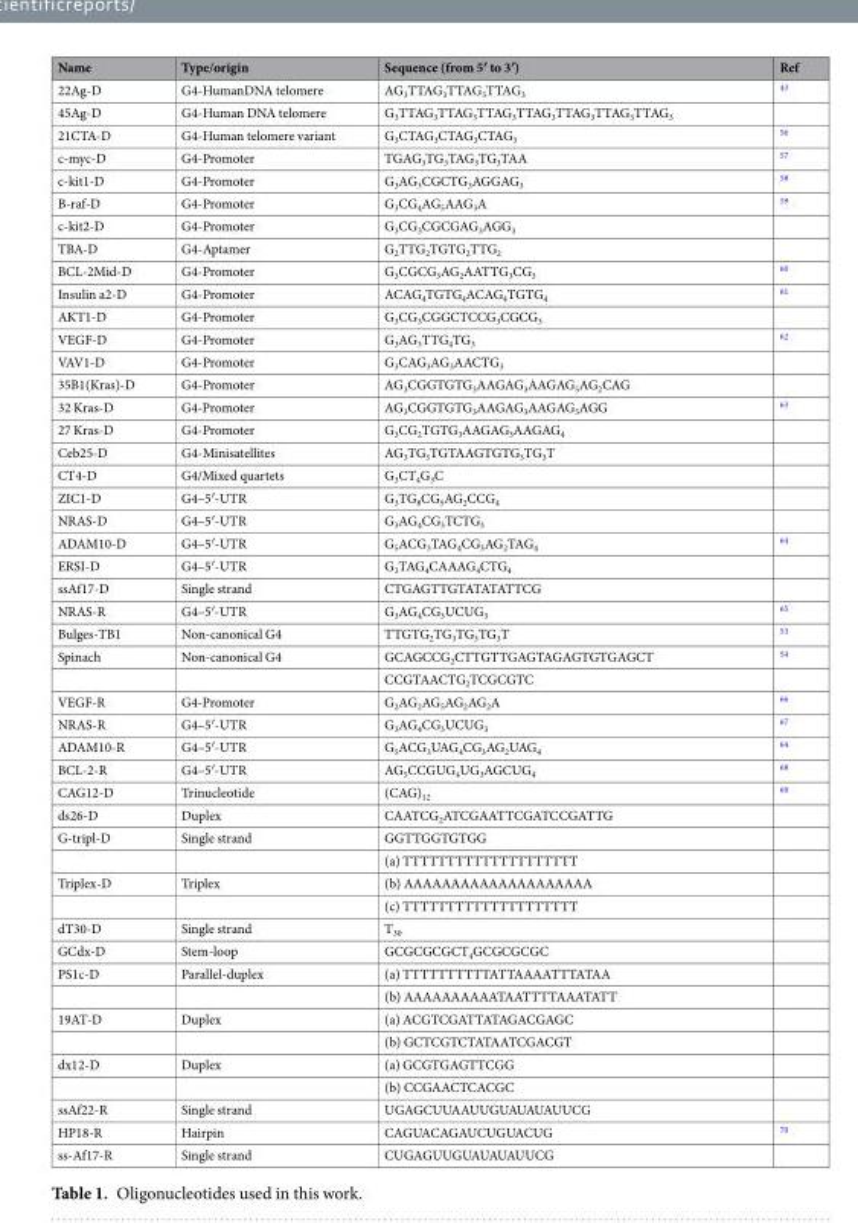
<table><thead><tr><td>Name</td><td>Type/origin</td><td>Sequence (from 5′ to 3′)</td><td>Ref</td></tr></thead><tbody><tr><td>22Ag-D</td><td>G4-HumanDNA telomere</td><td>AG<sub>3</sub>TTAG<sub>3</sub>TTAG<sub>3</sub>TTAG<sub>3</sub></td><td><sup>43</sup></td></tr><tr><td>45Ag-D</td><td>G4-Human DNA telomere</td><td>G<sub>3</sub>TTAG<sub>3</sub>TTAG<sub>3</sub>TTAG<sub>3</sub>TTAG<sub>3</sub>TTAG<sub>3</sub>TTAG<sub>3</sub>TTAG<sub>3</sub></td><td></td></tr><tr><td>21CTA-D</td><td>G4-Human telomere variant</td><td>G<sub>3</sub>CTAG<sub>3</sub>CTAG<sub>3</sub>CTAG<sub>3</sub></td><td><sup>56</sup></td></tr><tr><td>c-myc-D</td><td>G4-Promoter</td><td>TGAG<sub>3</sub>TG<sub>3</sub>TAG<sub>3</sub>TG<sub>3</sub>TAA</td><td><sup>57</sup></td></tr><tr><td>c-kit1-D</td><td>G4-Promoter</td><td>G<sub>3</sub>AG<sub>3</sub>CGCTG<sub>3</sub>AGGAG<sub>3</sub></td><td><sup>58</sup></td></tr><tr><td>B-raf-D</td><td>G4-Promoter</td><td>G<sub>3</sub>CG<sub>4</sub>AG<sub>5</sub>AAG<sub>3</sub>A</td><td><sup>59</sup></td></tr><tr><td>c-kit2-D</td><td>G4-Promoter</td><td>G<sub>3</sub>CG<sub>3</sub>CGCGAG<sub>3</sub>AGG<sub>3</sub></td><td></td></tr><tr><td>TBA-D</td><td>G4-Aptamer</td><td>G<sub>2</sub>TTG<sub>2</sub>TGTG<sub>2</sub>TTG<sub>2</sub></td><td></td></tr><tr><td>BCL-2Mid-D</td><td>G4-Promoter</td><td>G<sub>3</sub>CGCG<sub>3</sub>AG<sub>2</sub>AATTG<sub>3</sub>CG<sub>3</sub></td><td><sup>60</sup></td></tr><tr><td>Insulin a2-D</td><td>G4-Promoter</td><td>ACAG<sub>4</sub>TGTG<sub>4</sub>ACAG<sub>4</sub>TGTG<sub>4</sub></td><td><sup>61</sup></td></tr><tr><td>AKT1-D</td><td>G4-Promoter</td><td>G<sub>3</sub>CG<sub>3</sub>CGGCTCCG<sub>3</sub>CGCG<sub>3</sub></td><td></td></tr><tr><td>VEGF-D</td><td>G4-Promoter</td><td>G<sub>3</sub>AG<sub>3</sub>TTG<sub>4</sub>TG<sub>3</sub></td><td><sup>62</sup></td></tr><tr><td>VAV1-D</td><td>G4-Promoter</td><td>G<sub>3</sub>CAG<sub>3</sub>AG<sub>3</sub>AACTG<sub>3</sub></td><td></td></tr><tr><td>35B1(Kras)-D</td><td>G4-Promoter</td><td>AG<sub>3</sub>CGGTGTG<sub>3</sub>AAGAG<sub>3</sub>AAGAG<sub>5</sub>AG<sub>2</sub>CAG</td><td></td></tr><tr><td>32 Kras-D</td><td>G4-Promoter</td><td>AG<sub>3</sub>CGGTGTG<sub>3</sub>AAGAG<sub>3</sub>AAGAG<sub>5</sub>AGG</td><td><sup>63</sup></td></tr><tr><td>27 Kras-D</td><td>G4-Promoter</td><td>G<sub>3</sub>CG<sub>2</sub>TGTG<sub>3</sub>AAGAG<sub>3</sub>AAGAG<sub>4</sub></td><td></td></tr><tr><td>Ceb25-D</td><td>G4-Minisatellites</td><td>AG<sub>3</sub>TG<sub>3</sub>TGTAAGTGTG<sub>3</sub>TG<sub>3</sub>T</td><td></td></tr><tr><td>CT4-D</td><td>G4/Mixed quartets</td><td>G<sub>3</sub>CT<sub>4</sub>G<sub>3</sub>C</td><td></td></tr><tr><td>ZIC1-D</td><td>G4–5′-UTR</td><td>G<sub>3</sub>TG<sub>8</sub>CG<sub>5</sub>AG<sub>2</sub>CCG<sub>4</sub></td><td></td></tr><tr><td>NRAS-D</td><td>G4–5′-UTR</td><td>G<sub>3</sub>AG<sub>4</sub>CG<sub>3</sub>TCTG<sub>3</sub></td><td></td></tr><tr><td>ADAM10-D</td><td>G4–5′-UTR</td><td>G<sub>5</sub>ACG<sub>3</sub>TAG<sub>4</sub>CG<sub>3</sub>AG<sub>2</sub>TAG<sub>4</sub></td><td><sup>64</sup></td></tr><tr><td>ERSI-D</td><td>G4–5′-UTR</td><td>G<sub>3</sub>TAG<sub>4</sub>CAAAG<sub>4</sub>CTG<sub>4</sub></td><td></td></tr><tr><td>ssAf17-D</td><td>Single strand</td><td>CTGAGTTGTATATATTCG</td><td></td></tr><tr><td>NRAS-R</td><td>G4–5′-UTR</td><td>G<sub>3</sub>AG<sub>4</sub>CG<sub>3</sub>UCUG<sub>3</sub></td><td><sup>65</sup></td></tr><tr><td>Bulges-TB1</td><td>Non-canonical G4</td><td>TTGTG<sub>2</sub>TG<sub>3</sub>TG<sub>3</sub>TG<sub>3</sub>T</td><td><sup>53</sup></td></tr><tr><td rowspan="2">Spinach</td><td>Non-canonical G4</td><td>GCAGCCG<sub>2</sub>CTTGTTGAGTAGAGTGTGAGCT</td><td><sup>54</sup></td></tr><tr><td></td><td>CCGTAACTG<sub>2</sub>TCGCGTC</td><td></td></tr><tr><td>VEGF-R</td><td>G4-Promoter</td><td>G<sub>2</sub>AG<sub>2</sub>AG<sub>5</sub>AG<sub>2</sub>AG<sub>2</sub>A</td><td><sup>66</sup></td></tr><tr><td>NRAS-R</td><td>G4–5′-UTR</td><td>G<sub>3</sub>AG<sub>4</sub>CG<sub>3</sub>UCUG<sub>3</sub></td><td><sup>67</sup></td></tr><tr><td>ADAM10-R</td><td>G4–5′-UTR</td><td>G<sub>5</sub>ACG<sub>3</sub>UAG<sub>4</sub>CG<sub>3</sub>AG<sub>2</sub>UAG<sub>4</sub></td><td><sup>64</sup></td></tr><tr><td>BCL-2-R</td><td>G4–5′-UTR</td><td>AG<sub>5</sub>CCGUG<sub>4</sub>UG<sub>3</sub>AGCUG<sub>4</sub></td><td><sup>68</sup></td></tr><tr><td>CAG12-D</td><td>Trinucleotide</td><td>(CAG)<sub>12</sub></td><td><sup>69</sup></td></tr><tr><td>ds26-D</td><td>Duplex</td><td>CAATCG<sub>2</sub>ATCGAATTCGATCCGATTG</td><td></td></tr><tr><td rowspan="2">G-tripl-D</td><td>Single strand</td><td>GGTTGGTGTGG</td><td></td></tr><tr><td></td><td>(a) TTTTTTTTTTTTTTTTTTTT</td><td></td></tr><tr><td rowspan="2">Triplex-D</td><td>Triplex</td><td>(b) AAAAAAAAAAAAAAAAAAAA</td><td></td></tr><tr><td></td><td>(c) TTTTTTTTTTTTTTTTTTTT</td><td></td></tr><tr><td>dT30-D</td><td>Single strand</td><td>T<sub>30</sub></td><td></td></tr><tr><td>GCdx-D</td><td>Stem-loop</td><td>GCGCGCGCT<sub>4</sub>GCGCGCGC</td><td></td></tr><tr><td rowspan="2">PS1c-D</td><td>Parallel-duplex</td><td>(a) TTTTTTTTTTATTAAAATTTATAA</td><td></td></tr><tr><td></td><td>(b) AAAAAAAAAATAATTTTAAATATT</td><td></td></tr><tr><td rowspan="2">19AT-D</td><td>Duplex</td><td>(a) ACGTCGATTATAGACGAGC</td><td></td></tr><tr><td></td><td>(b) GCTCGTCTATAATCGACGT</td><td></td></tr><tr><td rowspan="2">dx12-D</td><td>Duplex</td><td>(a) GCGTGAGTTCGG</td><td></td></tr><tr><td></td><td>(b) CCGAACTCACGC</td><td></td></tr><tr><td>ssAf22-R</td><td>Single strand</td><td>UGAGCUUAAUUGUAUAUAUUCG</td><td></td></tr><tr><td>HP18-R</td><td>Hairpin</td><td>CAGUACAGAUCUGUACUG</td><td><sup>70</sup></td></tr><tr><td>ss-Af17-R</td><td>Single strand</td><td>CUGAGUUGUAUAUAUUCG</td><td></td></tr></tbody></table>